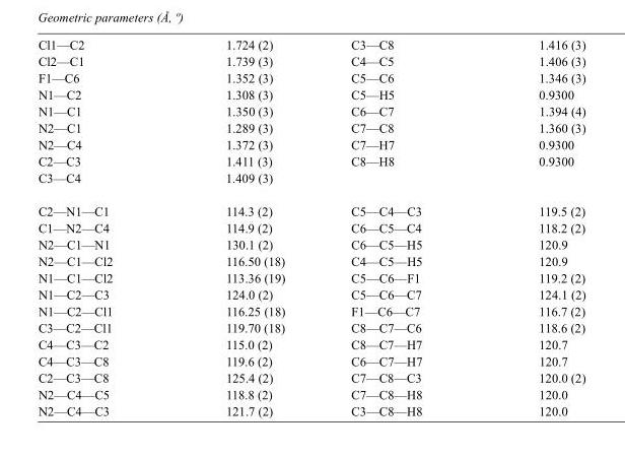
<table><tbody><tr><td>Cl1—C2</td><td>1.724 (2)</td><td>C3—C8</td><td>1.416 (3)</td></tr><tr><td>Cl2—C1</td><td>1.739 (3)</td><td>C4—C5</td><td>1.406 (3)</td></tr><tr><td>F1—C6</td><td>1.352 (3)</td><td>C5—C6</td><td>1.346 (3)</td></tr><tr><td>N1—C2</td><td>1.308 (3)</td><td>C5—H5</td><td>0.9300</td></tr><tr><td>N1—C1</td><td>1.350 (3)</td><td>C6—C7</td><td>1.394 (4)</td></tr><tr><td>N2—C1</td><td>1.289 (3)</td><td>C7—C8</td><td>1.360 (3)</td></tr><tr><td>N2—C4</td><td>1.372 (3)</td><td>C7—H7</td><td>0.9300</td></tr><tr><td>C2—C3</td><td>1.411 (3)</td><td>C8—H8</td><td>0.9300</td></tr><tr><td>C3—C4</td><td>1.409 (3)</td><td></td><td></td></tr><tr><td>C2—N1—C1</td><td>114.3 (2)</td><td>C5—C4—C3</td><td>119.5 (2)</td></tr><tr><td>C1—N2—C4</td><td>114.9 (2)</td><td>C6—C5—C4</td><td>118.2 (2)</td></tr><tr><td>N2—C1—N1</td><td>130.1 (2)</td><td>C6—C5—H5</td><td>120.9</td></tr><tr><td>N2—C1—Cl2</td><td>116.50 (18)</td><td>C4—C5—H5</td><td>120.9</td></tr><tr><td>N1—C1—Cl2</td><td>113.36 (19)</td><td>C5—C6—F1</td><td>119.2 (2)</td></tr><tr><td>N1—C2—C3</td><td>124.0 (2)</td><td>C5—C6—C7</td><td>124.1 (2)</td></tr><tr><td>N1—C2—Cl1</td><td>116.25 (18)</td><td>F1—C6—C7</td><td>116.7 (2)</td></tr><tr><td>C3—C2—Cl1</td><td>119.70 (18)</td><td>C8—C7—C6</td><td>118.6 (2)</td></tr><tr><td>C4—C3—C2</td><td>115.0 (2)</td><td>C8—C7—H7</td><td>120.7</td></tr><tr><td>C4—C3—C8</td><td>119.6 (2)</td><td>C6—C7—H7</td><td>120.7</td></tr><tr><td>C2—C3—C8</td><td>125.4 (2)</td><td>C7—C8—C3</td><td>120.0 (2)</td></tr><tr><td>N2—C4—C5</td><td>118.8 (2)</td><td>C7—C8—H8</td><td>120.0</td></tr><tr><td>N2—C4—C3</td><td>121.7 (2)</td><td>C3—C8—H8</td><td>120.0</td></tr></tbody></table>